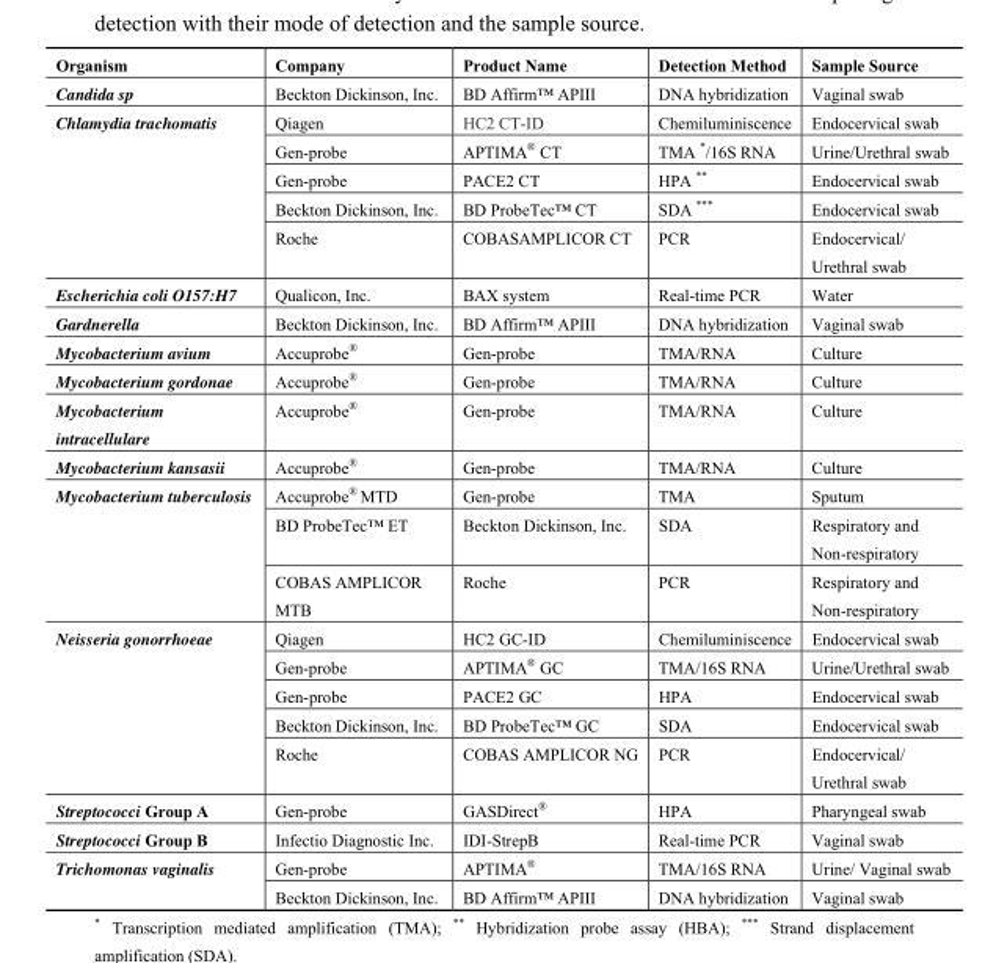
<table><thead><tr><td>Organism</td><td>Company</td><td>Product Name</td><td>Detection Method</td><td>Sample Source</td></tr></thead><tbody><tr><td>Candida sp</td><td>Beckton Dickinson, Inc.</td><td>BD Affirm™ APIII</td><td>DNA hybridization</td><td>Vaginal swab</td></tr><tr><td rowspan="5">Chlamydia trachomatis</td><td>Qiagen</td><td>HC2 CT-ID</td><td>Chemiluminiscence</td><td>Endocervical swab</td></tr><tr><td>Gen-probe</td><td>APTIMA<sup>®</sup> CT</td><td>TMA */16S RNA</td><td>Urine/Urethral swab</td></tr><tr><td>Gen-probe</td><td>PACE2 CT</td><td>HPA **</td><td>Endocervical swab</td></tr><tr><td>Beckton Dickinson, Inc.</td><td>BD ProbeTec™ CT</td><td>SDA ***</td><td>Endocervical swab</td></tr><tr><td>Roche</td><td>COBASAMPLICOR CT</td><td>PCR</td><td>Endocervical/ Urethral swab</td></tr><tr><td>Escherichia coli O157:H7</td><td>Qualicon, Inc.</td><td>BAX system</td><td>Real-time PCR</td><td>Water</td></tr><tr><td>Gardnerella</td><td>Beckton Dickinson, Inc.</td><td>BD Affirm™ APIII</td><td>DNA hybridization</td><td>Vaginal swab</td></tr><tr><td>Mycobacterium avium</td><td>Accuprobe<sup>®</sup></td><td>Gen-probe</td><td>TMA/RNA</td><td>Culture</td></tr><tr><td>Mycobacterium gordonae</td><td>Accuprobe<sup>®</sup></td><td>Gen-probe</td><td>TMA/RNA</td><td>Culture</td></tr><tr><td>Mycobacterium intracellulare</td><td>Accuprobe<sup>®</sup></td><td>Gen-probe</td><td>TMA/RNA</td><td>Culture</td></tr><tr><td>Mycobacterium kansasii</td><td>Accuprobe<sup>®</sup></td><td>Gen-probe</td><td>TMA/RNA</td><td>Culture</td></tr><tr><td rowspan="3">Mycobacterium tuberculosis</td><td>Accuprobe<sup>®</sup> MTD</td><td>Gen-probe</td><td>TMA</td><td>Sputum</td></tr><tr><td>BD ProbeTec™ ET</td><td>Beckton Dickinson, Inc.</td><td>SDA</td><td>Respiratory and Non-respiratory</td></tr><tr><td>COBAS AMPLICOR MTB</td><td>Roche</td><td>PCR</td><td>Respiratory and Non-respiratory</td></tr><tr><td rowspan="5">Neisseria gonorrhoeae</td><td>Qiagen</td><td>HC2 GC-ID</td><td>Chemiluminiscence</td><td>Endocervical swab</td></tr><tr><td>Gen-probe</td><td>APTIMA<sup>®</sup> GC</td><td>TMA/16S RNA</td><td>Urine/Urethral swab</td></tr><tr><td>Gen-probe</td><td>PACE2 GC</td><td>HPA</td><td>Endocervical swab</td></tr><tr><td>Beckton Dickinson, Inc.</td><td>BD ProbeTec™ GC</td><td>SDA</td><td>Endocervical swab</td></tr><tr><td>Roche</td><td>COBAS AMPLICOR NG</td><td>PCR</td><td>Endocervical/ Urethral swab</td></tr><tr><td>Streptococci Group A</td><td>Gen-probe</td><td>GASDirect<sup>®</sup></td><td>HPA</td><td>Pharyngeal swab</td></tr><tr><td>Streptococci Group B</td><td>Infectio Diagnostic Inc.</td><td>IDI-StrepB</td><td>Real-time PCR</td><td>Vaginal swab</td></tr><tr><td rowspan="2">Trichomonas vaginalis</td><td>Gen-probe</td><td>APTIMA<sup>®</sup></td><td>TMA/16S RNA</td><td>Urine/ Vaginal swab</td></tr><tr><td>Beckton Dickinson, Inc.</td><td>BD Affirm™ APIII</td><td>DNA hybridization</td><td>Vaginal swab</td></tr></tbody></table>